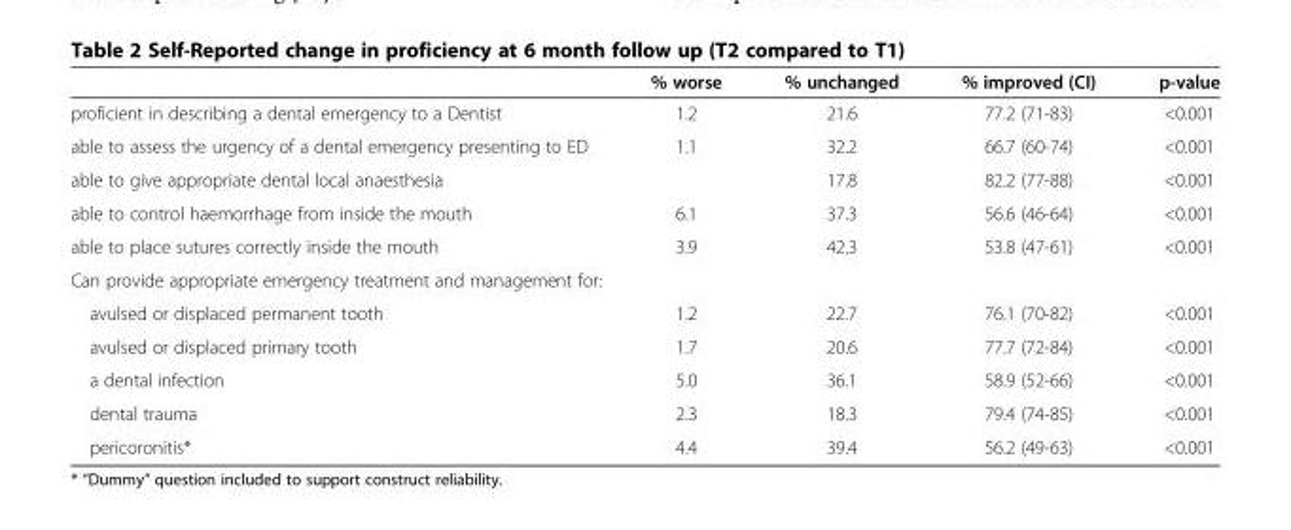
<table><thead><tr><td></td><td>% worse</td><td>% unchanged</td><td>% improved (CI)</td><td>p-value</td></tr></thead><tbody><tr><td>proficient in describing a dental emergency to a Dentist</td><td>1.2</td><td>21.6</td><td>77.2 (71-83)</td><td>&lt;0.001</td></tr><tr><td>able to assess the urgency of a dental emergency presenting to ED</td><td>1.1</td><td>32.2</td><td>66.7 (60-74)</td><td>&lt;0.001</td></tr><tr><td>able to give appropriate dental local anaesthesia</td><td></td><td>17.8</td><td>82.2 (77-88)</td><td>&lt;0.001</td></tr><tr><td>able to control haemorrhage from inside the mouth</td><td>6.1</td><td>37.3</td><td>56.6 (46-64)</td><td>&lt;0.001</td></tr><tr><td>able to place sutures correctly inside the mouth</td><td>3.9</td><td>42.3</td><td>53.8 (47-61)</td><td>&lt;0.001</td></tr><tr><td colspan="5">Can provide appropriate emergency treatment and management for:</td></tr><tr><td>avulsed or displaced permanent tooth</td><td>1.2</td><td>22.7</td><td>76.1 (70-82)</td><td>&lt;0.001</td></tr><tr><td>avulsed or displaced primary tooth</td><td>1.7</td><td>20.6</td><td>77.7 (72-84)</td><td>&lt;0.001</td></tr><tr><td>a dental infection</td><td>5.0</td><td>36.1</td><td>58.9 (52-66)</td><td>&lt;0.001</td></tr><tr><td>dental trauma</td><td>2.3</td><td>18.3</td><td>79.4 (74-85)</td><td>&lt;0.001</td></tr><tr><td>pericoronitis*</td><td>4.4</td><td>39.4</td><td>56.2 (49-63)</td><td>&lt;0.001</td></tr></tbody></table>